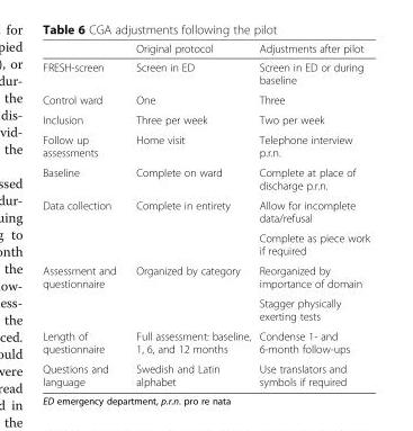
<table><thead><tr><td></td><td>Original protocol</td><td>Adjustments after pilot</td></tr></thead><tbody><tr><td>FRESH-screen</td><td>Screen in ED</td><td>Screen in ED or during baseline</td></tr><tr><td>Control ward</td><td>One</td><td>Three</td></tr><tr><td>Inclusion</td><td>Three per week</td><td>Two per week</td></tr><tr><td>Follow up assessments</td><td>Home visit</td><td>Telephone interview p.r.n.</td></tr><tr><td>Baseline</td><td>Complete on ward</td><td>Complete at place of discharge p.r.n.</td></tr><tr><td rowspan="2">Data collection</td><td rowspan="2">Complete in entirety</td><td>Allow for incomplete data/refusal</td></tr><tr><td>Complete as piece work if required</td></tr><tr><td rowspan="2">Assessment and questionnaire</td><td rowspan="2">Organized by category</td><td>Reorganized by importance of domain</td></tr><tr><td>Stagger physically exerting tests</td></tr><tr><td>Length of questionnaire</td><td>Full assessment: baseline, 1, 6, and 12 months</td><td>Condense 1- and 6-month follow-ups</td></tr><tr><td>Questions and language</td><td>Swedish and Latin alphabet</td><td>Use translators and symbols if required</td></tr></tbody></table>